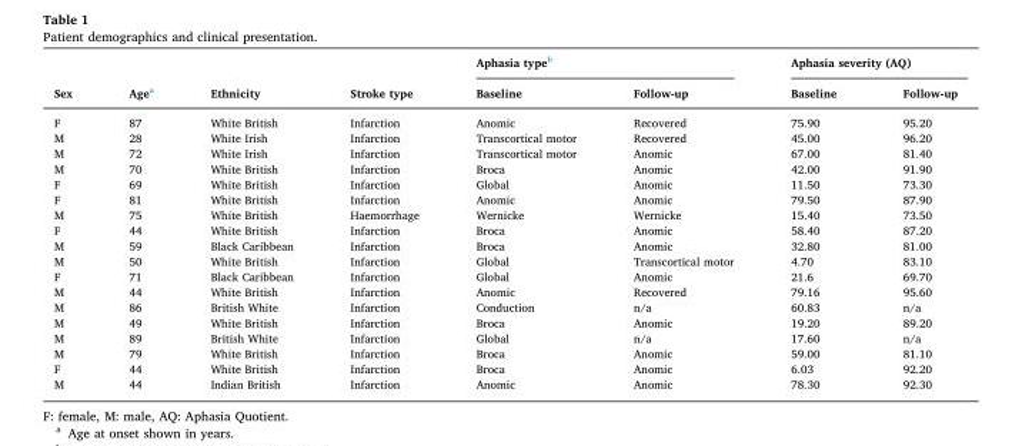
<table><thead><tr><td rowspan="2">Sex</td><td rowspan="2">Age<sup>a</sup></td><td rowspan="2">Ethnicity</td><td rowspan="2">Stroke type</td><td colspan="2">Aphasia type<sup>b</sup></td><td colspan="2">Aphasia severity (AQ)</td></tr><tr><td>Baseline</td><td>Follow-up</td><td>Baseline</td><td>Follow-up</td></tr></thead><tbody><tr><td>F</td><td>87</td><td>White British</td><td>Infarction</td><td>Anomic</td><td>Recovered</td><td>75.90</td><td>95.20</td></tr><tr><td>M</td><td>28</td><td>White Irish</td><td>Infarction</td><td>Transcortical motor</td><td>Recovered</td><td>45.00</td><td>96.20</td></tr><tr><td>M</td><td>72</td><td>White Irish</td><td>Infarction</td><td>Transcortical motor</td><td>Anomic</td><td>67.00</td><td>81.40</td></tr><tr><td>M</td><td>70</td><td>White British</td><td>Infarction</td><td>Broca</td><td>Anomic</td><td>42.00</td><td>91.90</td></tr><tr><td>F</td><td>69</td><td>White British</td><td>Infarction</td><td>Global</td><td>Anomic</td><td>11.50</td><td>73.30</td></tr><tr><td>F</td><td>81</td><td>White British</td><td>Infarction</td><td>Anomic</td><td>Anomic</td><td>79.50</td><td>87.90</td></tr><tr><td>M</td><td>75</td><td>White British</td><td>Haemorrhage</td><td>Wernicke</td><td>Wernicke</td><td>15.40</td><td>73.50</td></tr><tr><td>F</td><td>44</td><td>White British</td><td>Infarction</td><td>Broca</td><td>Anomic</td><td>58.40</td><td>87.20</td></tr><tr><td>M</td><td>59</td><td>Black Caribbean</td><td>Infarction</td><td>Broca</td><td>Anomic</td><td>32.80</td><td>81.00</td></tr><tr><td>M</td><td>50</td><td>White British</td><td>Infarction</td><td>Global</td><td>Transcortical motor</td><td>4.70</td><td>83.10</td></tr><tr><td>F</td><td>71</td><td>Black Caribbean</td><td>Infarction</td><td>Global</td><td>Anomic</td><td>21.6</td><td>69.70</td></tr><tr><td>M</td><td>44</td><td>White British</td><td>Infarction</td><td>Anomic</td><td>Recovered</td><td>79.16</td><td>95.60</td></tr><tr><td>M</td><td>86</td><td>British White</td><td>Infarction</td><td>Conduction</td><td>n/a</td><td>60.83</td><td>n/a</td></tr><tr><td>M</td><td>49</td><td>White British</td><td>Infarction</td><td>Broca</td><td>Anomic</td><td>19.20</td><td>89.20</td></tr><tr><td>M</td><td>89</td><td>British White</td><td>Infarction</td><td>Global</td><td>n/a</td><td>17.60</td><td>n/a</td></tr><tr><td>M</td><td>79</td><td>White British</td><td>Infarction</td><td>Broca</td><td>Anomic</td><td>59.00</td><td>81.10</td></tr><tr><td>F</td><td>44</td><td>White British</td><td>Infarction</td><td>Broca</td><td>Anomic</td><td>6.03</td><td>92.20</td></tr><tr><td>M</td><td>44</td><td>Indian British</td><td>Infarction</td><td>Anomic</td><td>Anomic</td><td>78.30</td><td>92.30</td></tr></tbody></table>